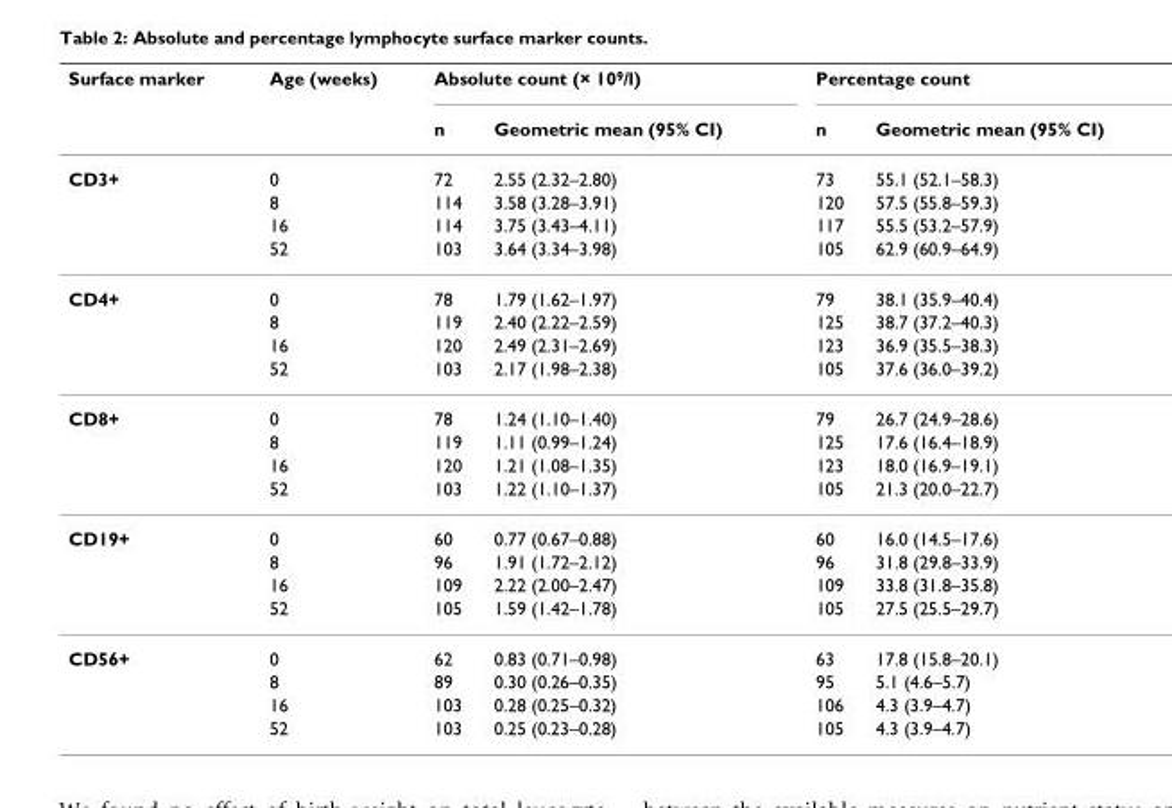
<table><thead><tr><td rowspan="2">Surface marker</td><td rowspan="2">Age (weeks)</td><td colspan="2">Absolute count (× 10<sup>9</sup>/l)</td><td colspan="2">Percentage count</td></tr><tr><td>n</td><td>Geometric mean (95% CI)</td><td>n</td><td>Geometric mean (95% CI)</td></tr></thead><tbody><tr><td rowspan="4">CD3+</td><td>0</td><td>72</td><td>2.55 (2.32–2.80)</td><td>73</td><td>55.1 (52.1–58.3)</td></tr><tr><td>8</td><td>114</td><td>3.58 (3.28–3.91)</td><td>120</td><td>57.5 (55.8–59.3)</td></tr><tr><td>16</td><td>114</td><td>3.75 (3.43–4.11)</td><td>117</td><td>55.5 (53.2–57.9)</td></tr><tr><td>52</td><td>103</td><td>3.64 (3.34–3.98)</td><td>105</td><td>62.9 (60.9–64.9)</td></tr><tr><td rowspan="4">CD4+</td><td>0</td><td>78</td><td>1.79 (1.62–1.97)</td><td>79</td><td>38.1 (35.9–40.4)</td></tr><tr><td>8</td><td>119</td><td>2.40 (2.22–2.59)</td><td>125</td><td>38.7 (37.2–40.3)</td></tr><tr><td>16</td><td>120</td><td>2.49 (2.31–2.69)</td><td>123</td><td>36.9 (35.5–38.3)</td></tr><tr><td>52</td><td>103</td><td>2.17 (1.98–2.38)</td><td>105</td><td>37.6 (36.0–39.2)</td></tr><tr><td rowspan="4">CD8+</td><td>0</td><td>78</td><td>1.24 (1.10–1.40)</td><td>79</td><td>26.7 (24.9–28.6)</td></tr><tr><td>8</td><td>119</td><td>1.11 (0.99–1.24)</td><td>125</td><td>17.6 (16.4–18.9)</td></tr><tr><td>16</td><td>120</td><td>1.21 (1.08–1.35)</td><td>123</td><td>18.0 (16.9–19.1)</td></tr><tr><td>52</td><td>103</td><td>1.22 (1.10–1.37)</td><td>105</td><td>21.3 (20.0–22.7)</td></tr><tr><td rowspan="4">CD19+</td><td>0</td><td>60</td><td>0.77 (0.67–0.88)</td><td>60</td><td>16.0 (14.5–17.6)</td></tr><tr><td>8</td><td>96</td><td>1.91 (1.72–2.12)</td><td>96</td><td>31.8 (29.8–33.9)</td></tr><tr><td>16</td><td>109</td><td>2.22 (2.00–2.47)</td><td>109</td><td>33.8 (31.8–35.8)</td></tr><tr><td>52</td><td>105</td><td>1.59 (1.42–1.78)</td><td>105</td><td>27.5 (25.5–29.7)</td></tr><tr><td rowspan="4">CD56+</td><td>0</td><td>62</td><td>0.83 (0.71–0.98)</td><td>63</td><td>17.8 (15.8–20.1)</td></tr><tr><td>8</td><td>89</td><td>0.30 (0.26–0.35)</td><td>95</td><td>5.1 (4.6–5.7)</td></tr><tr><td>16</td><td>103</td><td>0.28 (0.25–0.32)</td><td>106</td><td>4.3 (3.9–4.7)</td></tr><tr><td>52</td><td>103</td><td>0.25 (0.23–0.28)</td><td>105</td><td>4.3 (3.9–4.7)</td></tr></tbody></table>